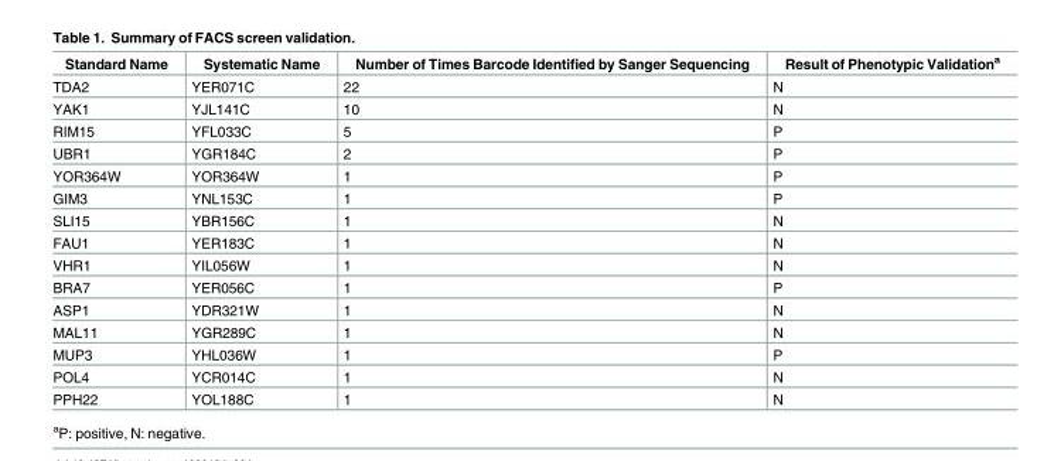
<table><thead><tr><td>Standard Name</td><td>Systematic Name</td><td>Number of Times Barcode Identified by Sanger Sequencing</td><td>Result of Phenotypic Validation<sup>a</sup></td></tr></thead><tbody><tr><td>TDA2</td><td>YER071C</td><td>22</td><td>N</td></tr><tr><td>YAK1</td><td>YJL141C</td><td>10</td><td>N</td></tr><tr><td>RIM15</td><td>YFL033C</td><td>5</td><td>P</td></tr><tr><td>UBR1</td><td>YGR184C</td><td>2</td><td>P</td></tr><tr><td>YOR364W</td><td>YOR364W</td><td>1</td><td>P</td></tr><tr><td>GIM3</td><td>YNL153C</td><td>1</td><td>P</td></tr><tr><td>SLI15</td><td>YBR156C</td><td>1</td><td>N</td></tr><tr><td>FAU1</td><td>YER183C</td><td>1</td><td>N</td></tr><tr><td>VHR1</td><td>YIL056W</td><td>1</td><td>N</td></tr><tr><td>BRA7</td><td>YER056C</td><td>1</td><td>P</td></tr><tr><td>ASP1</td><td>YDR321W</td><td>1</td><td>N</td></tr><tr><td>MAL11</td><td>YGR289C</td><td>1</td><td>N</td></tr><tr><td>MUP3</td><td>YHL036W</td><td>1</td><td>P</td></tr><tr><td>POL4</td><td>YCR014C</td><td>1</td><td>N</td></tr><tr><td>PPH22</td><td>YOL188C</td><td>1</td><td>N</td></tr></tbody></table>